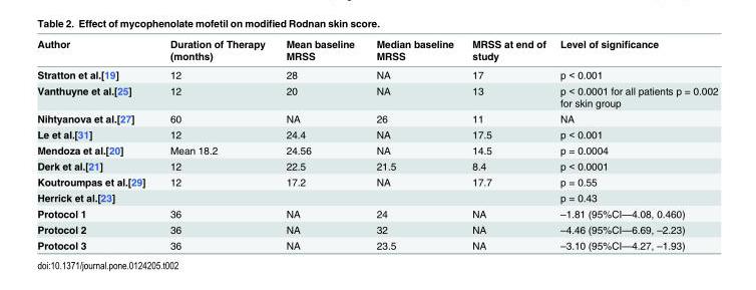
<table><thead><tr><td>Author</td><td>Duration of Therapy (months)</td><td>Mean baseline MRSS</td><td>Median baseline MRSS</td><td>MRSS at end of study</td><td>Level of significance</td></tr></thead><tbody><tr><td>Stratton et al.[19]</td><td>12</td><td>28</td><td>NA</td><td>17</td><td>p &lt; 0.001</td></tr><tr><td>Vanthuyne et al.[25]</td><td>12</td><td>20</td><td>NA</td><td>13</td><td>p &lt; 0.0001 for all patients p = 0.002 for skin group</td></tr><tr><td>Nihtyanova et al.[27]</td><td>60</td><td>NA</td><td>26</td><td>11</td><td>NA</td></tr><tr><td>Le et al.[31]</td><td>12</td><td>24.4</td><td>NA</td><td>17.5</td><td>p &lt; 0.001</td></tr><tr><td>Mendoza et al.[20]</td><td>Mean 18.2</td><td>24.56</td><td>NA</td><td>14.5</td><td>p = 0.0004</td></tr><tr><td>Derk et al.[21]</td><td>12</td><td>22.5</td><td>21.5</td><td>8.4</td><td>p &lt; 0.0001</td></tr><tr><td>Koutroumpas et al.[29]</td><td>12</td><td>17.2</td><td>NA</td><td>17.7</td><td>p = 0.55</td></tr><tr><td>Herrick et al.[23]</td><td></td><td></td><td></td><td></td><td>p = 0.43</td></tr><tr><td>Protocol 1</td><td>36</td><td>NA</td><td>24</td><td>NA</td><td>–1.81 (95%CI—4.08, 0.460)</td></tr><tr><td>Protocol 2</td><td>36</td><td>NA</td><td>32</td><td>NA</td><td>–4.46 (95%CI—6.69, –2.23)</td></tr><tr><td>Protocol 3</td><td>36</td><td>NA</td><td>23.5</td><td>NA</td><td>–3.10 (95%CI—4.27, –1.93)</td></tr></tbody></table>